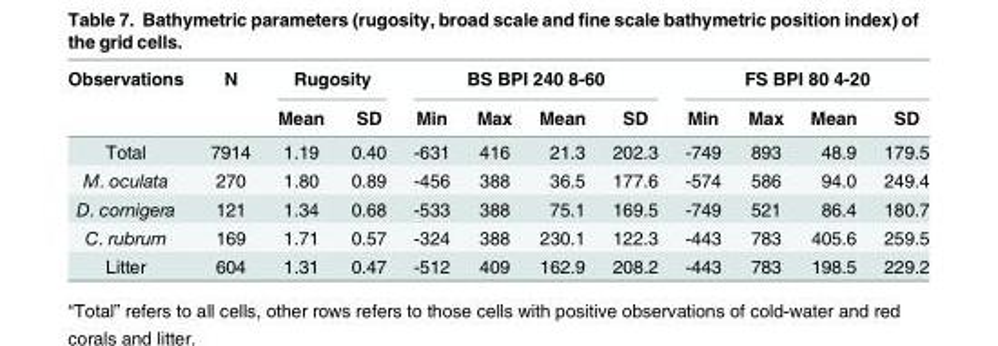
<table><thead><tr><td rowspan="2">Observations</td><td rowspan="2">N</td><td colspan="2">Rugosity</td><td colspan="4">BS BPI 240 8-60</td><td colspan="4">FS BPI 80 4-20</td></tr><tr><td>Mean</td><td>SD</td><td>Min</td><td>Max</td><td>Mean</td><td>SD</td><td>Min</td><td>Max</td><td>Mean</td><td>SD</td></tr></thead><tbody><tr><td>Total</td><td>7914</td><td>1.19</td><td>0.40</td><td>-631</td><td>416</td><td>21.3</td><td>202.3</td><td>-749</td><td>893</td><td>48.9</td><td>179.5</td></tr><tr><td>M. oculata</td><td>270</td><td>1.80</td><td>0.89</td><td>-456</td><td>388</td><td>36.5</td><td>177.6</td><td>-574</td><td>586</td><td>94.0</td><td>249.4</td></tr><tr><td>D. cornigera</td><td>121</td><td>1.34</td><td>0.68</td><td>-533</td><td>388</td><td>75.1</td><td>169.5</td><td>-749</td><td>521</td><td>86.4</td><td>180.7</td></tr><tr><td>C. rubrum</td><td>169</td><td>1.71</td><td>0.57</td><td>-324</td><td>388</td><td>230.1</td><td>122.3</td><td>-443</td><td>783</td><td>405.6</td><td>259.5</td></tr><tr><td>Litter</td><td>604</td><td>1.31</td><td>0.47</td><td>-512</td><td>409</td><td>162.9</td><td>208.2</td><td>-443</td><td>783</td><td>198.5</td><td>229.2</td></tr></tbody></table>